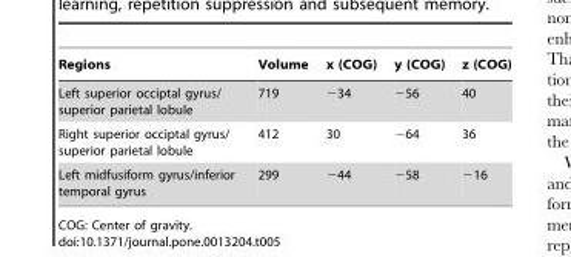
<table><thead><tr><td>Regions</td><td>Volume</td><td>x (COG)</td><td>y (COG)</td><td>z (COG)</td></tr></thead><tbody><tr><td>Left superior occiptal gyrus/ superior parietal lobule</td><td>719</td><td>−34</td><td>−56</td><td>40</td></tr><tr><td>Right superior occiptal gyrus/ superior parietal lobule</td><td>412</td><td>30</td><td>−64</td><td>36</td></tr><tr><td>Left midfusiform gyrus/inferior temporal gyrus</td><td>299</td><td>−44</td><td>−58</td><td>−16</td></tr></tbody></table>